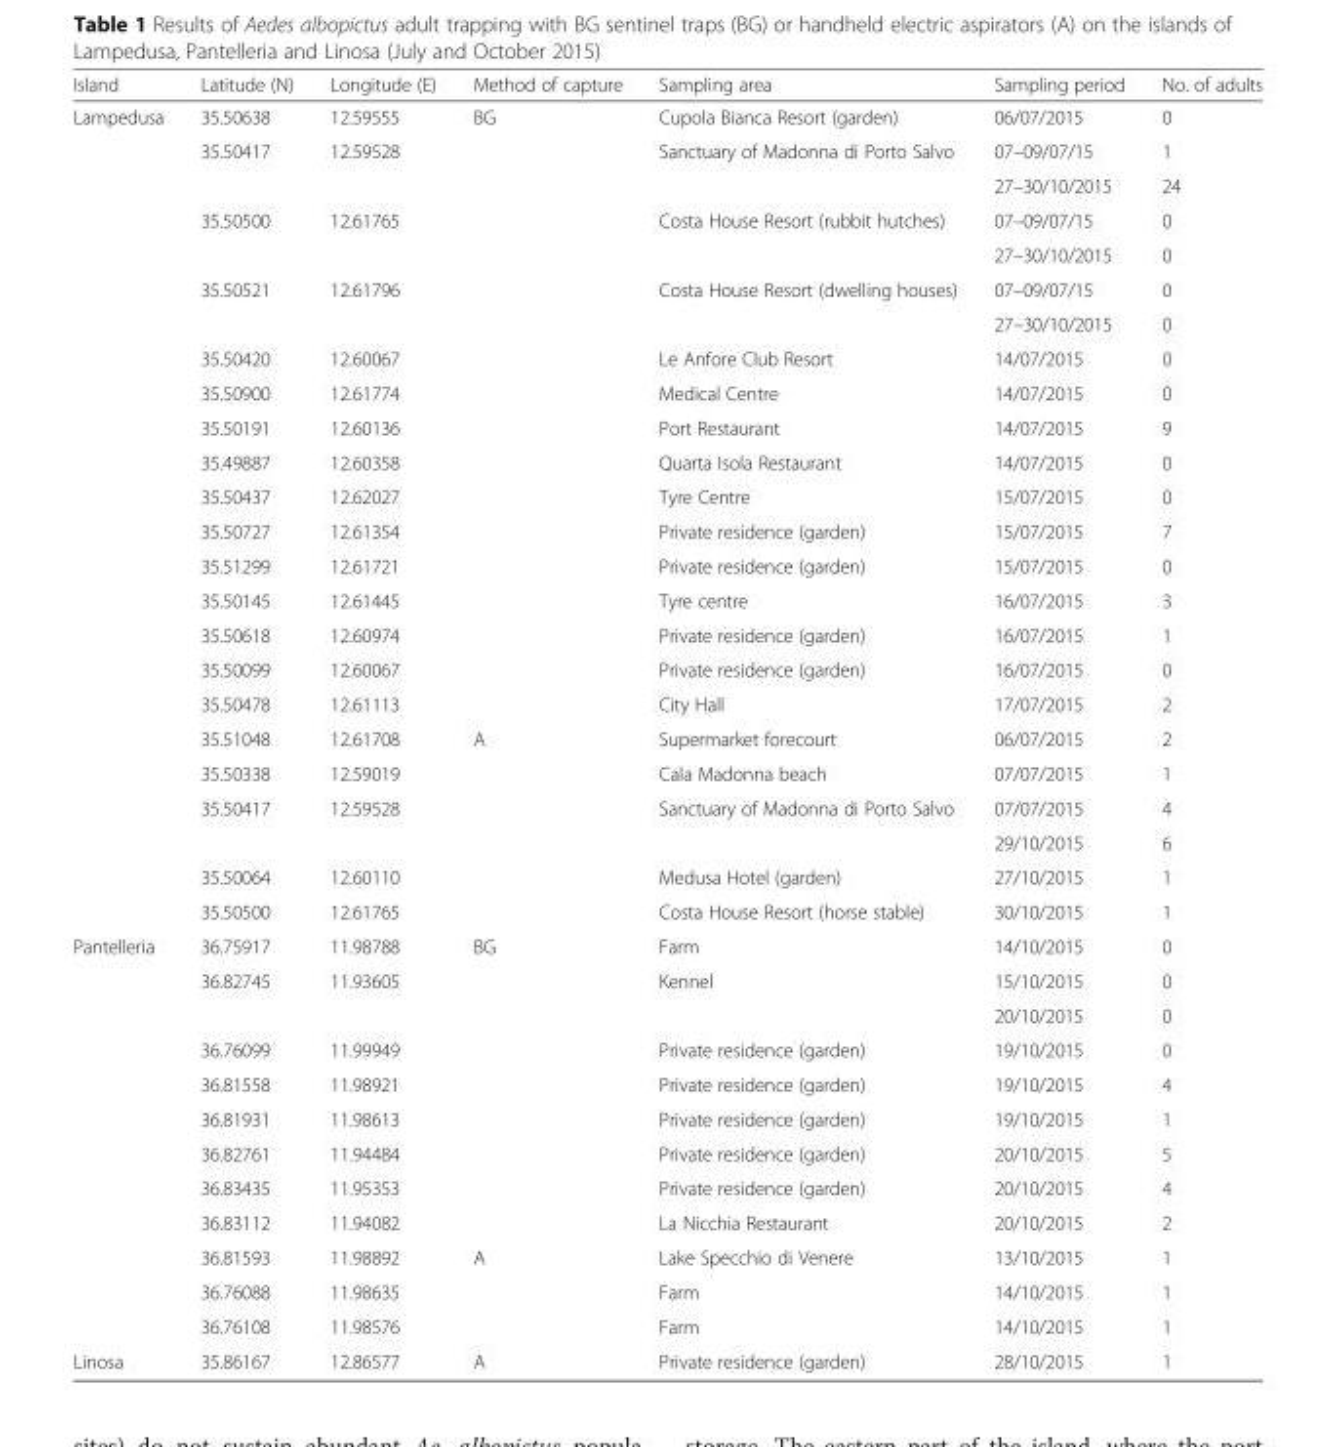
<table><thead><tr><td>Island</td><td>Latitude (N)</td><td>Longitude (E)</td><td>Method of capture</td><td>Sampling area</td><td>Sampling period</td><td>No. of adults</td></tr></thead><tbody><tr><td rowspan="24">Lampedusa</td><td>35.50638</td><td>12.59555</td><td rowspan="18">BG</td><td>Cupola Bianca Resort (garden)</td><td>06/07/2015</td><td>0</td></tr><tr><td rowspan="2">35.50417</td><td rowspan="2">12.59528</td><td rowspan="2">Sanctuary of Madonna di Porto Salvo</td><td>07–09/07/15</td><td>1</td></tr><tr><td>27–30/10/2015</td><td>24</td></tr><tr><td rowspan="2">35.50500</td><td rowspan="2">12.61765</td><td rowspan="2">Costa House Resort (rubbit hutches)</td><td>07–09/07/15</td><td>0</td></tr><tr><td>27–30/10/2015</td><td>0</td></tr><tr><td rowspan="2">35.50521</td><td rowspan="2">12.61796</td><td rowspan="2">Costa House Resort (dwelling houses)</td><td>07–09/07/15</td><td>0</td></tr><tr><td>27–30/10/2015</td><td>0</td></tr><tr><td>35.50420</td><td>12.60067</td><td>Le Anfore Club Resort</td><td>14/07/2015</td><td>0</td></tr><tr><td>35.50900</td><td>12.61774</td><td>Medical Centre</td><td>14/07/2015</td><td>0</td></tr><tr><td>35.50191</td><td>12.60136</td><td>Port Restaurant</td><td>14/07/2015</td><td>9</td></tr><tr><td>35.49887</td><td>12.60358</td><td>Quarta Isola Restaurant</td><td>14/07/2015</td><td>0</td></tr><tr><td>35.50437</td><td>12.62027</td><td>Tyre Centre</td><td>15/07/2015</td><td>0</td></tr><tr><td>35.50727</td><td>12.61354</td><td>Private residence (garden)</td><td>15/07/2015</td><td>7</td></tr><tr><td>35.51299</td><td>12.61721</td><td>Private residence (garden)</td><td>15/07/2015</td><td>0</td></tr><tr><td>35.50145</td><td>12.61445</td><td>Tyre centre</td><td>16/07/2015</td><td>3</td></tr><tr><td>35.50618</td><td>12.60974</td><td>Private residence (garden)</td><td>16/07/2015</td><td>1</td></tr><tr><td>35.50099</td><td>12.60067</td><td>Private residence (garden)</td><td>16/07/2015</td><td>0</td></tr><tr><td>35.50478</td><td>12.61113</td><td>City Hall</td><td>17/07/2015</td><td>2</td></tr><tr><td>35.51048</td><td>12.61708</td><td rowspan="6">A</td><td>Supermarket forecourt</td><td>06/07/2015</td><td>2</td></tr><tr><td>35.50338</td><td>12.59019</td><td>Cala Madonna beach</td><td>07/07/2015</td><td>1</td></tr><tr><td rowspan="2">35.50417</td><td rowspan="2">12.59528</td><td rowspan="2">Sanctuary of Madonna di Porto Salvo</td><td>07/07/2015</td><td>4</td></tr><tr><td>29/10/2015</td><td>6</td></tr><tr><td>35.50064</td><td>12.60110</td><td>Medusa Hotel (garden)</td><td>27/10/2015</td><td>1</td></tr><tr><td>35.50500</td><td>12.61765</td><td>Costa House Resort (horse stable)</td><td>30/10/2015</td><td>1</td></tr><tr><td rowspan="12">Pantelleria</td><td>36.75917</td><td>11.98788</td><td rowspan="9">BG</td><td>Farm</td><td>14/10/2015</td><td>0</td></tr><tr><td rowspan="2">36.82745</td><td rowspan="2">11.93605</td><td rowspan="2">Kennel</td><td>15/10/2015</td><td>0</td></tr><tr><td>20/10/2015</td><td>0</td></tr><tr><td>36.76099</td><td>11.99949</td><td>Private residence (garden)</td><td>19/10/2015</td><td>0</td></tr><tr><td>36.81558</td><td>11.98921</td><td>Private residence (garden)</td><td>19/10/2015</td><td>4</td></tr><tr><td>36.81931</td><td>11.98613</td><td>Private residence (garden)</td><td>19/10/2015</td><td>1</td></tr><tr><td>36.82761</td><td>11.94484</td><td>Private residence (garden)</td><td>20/10/2015</td><td>5</td></tr><tr><td>36.83435</td><td>11.95353</td><td>Private residence (garden)</td><td>20/10/2015</td><td>4</td></tr><tr><td>36.83112</td><td>11.94082</td><td>La Nicchia Restaurant</td><td>20/10/2015</td><td>2</td></tr><tr><td>36.81593</td><td>11.98892</td><td rowspan="3">A</td><td>Lake Specchio di Venere</td><td>13/10/2015</td><td>1</td></tr><tr><td>36.76088</td><td>11.98635</td><td>Farm</td><td>14/10/2015</td><td>1</td></tr><tr><td>36.76108</td><td>11.98576</td><td>Farm</td><td>14/10/2015</td><td>1</td></tr><tr><td>Linosa</td><td>35.86167</td><td>12.86577</td><td>A</td><td>Private residence (garden)</td><td>28/10/2015</td><td>1</td></tr></tbody></table>